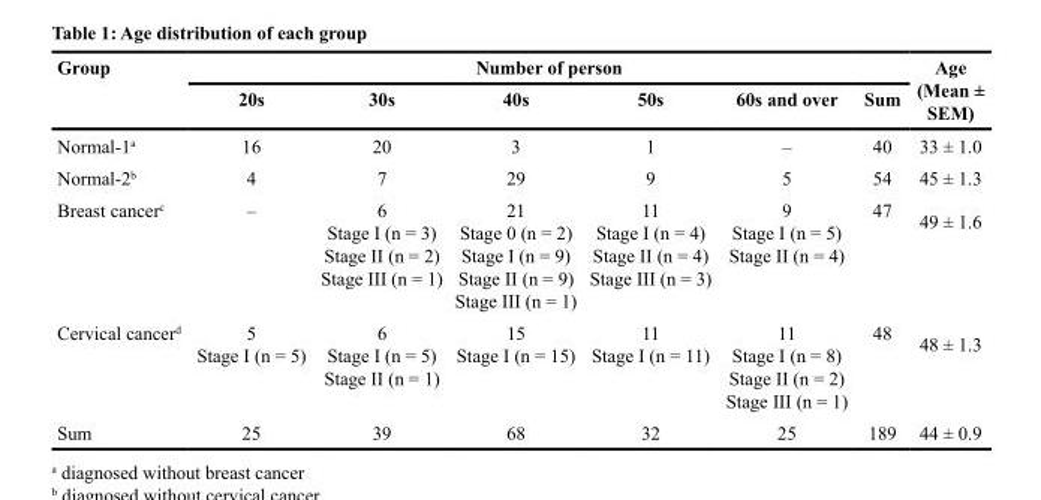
<table><thead><tr><td rowspan="2">Group</td><td colspan="6">Number of person</td><td rowspan="2">Age (Mean ± SEM)</td></tr><tr><td>20s</td><td>30s</td><td>40s</td><td>50s</td><td>60s and over</td><td>Sum</td></tr></thead><tbody><tr><td>Normal-1<sup>a</sup></td><td>16</td><td>20</td><td>3</td><td>1</td><td>–</td><td>40</td><td>33 ± 1.0</td></tr><tr><td>Normal-2<sup>b</sup></td><td>4</td><td>7</td><td>29</td><td>9</td><td>5</td><td>54</td><td>45 ± 1.3</td></tr><tr><td>Breast cancer<sup>c</sup></td><td>–</td><td>6 Stage I (n = 3) Stage II (n = 2) Stage III (n = 1)</td><td>21 Stage 0 (n = 2) Stage I (n = 9) Stage II (n = 9) Stage III (n = 1)</td><td>11 Stage I (n = 4) Stage II (n = 4) Stage III (n = 3)</td><td>9 Stage I (n = 5) Stage II (n = 4)</td><td>47</td><td>49 ± 1.6</td></tr><tr><td>Cervical cancer<sup>d</sup></td><td>5 Stage I (n = 5)</td><td>6 Stage I (n = 5) Stage II (n = 1)</td><td>15 Stage I (n = 15)</td><td>11 Stage I (n = 11)</td><td>11 Stage I (n = 8) Stage II (n = 2) Stage III (n = 1)</td><td>48</td><td>48 ± 1.3</td></tr><tr><td>Sum</td><td>25</td><td>39</td><td>68</td><td>32</td><td>25</td><td>189</td><td>44 ± 0.9</td></tr></tbody></table>